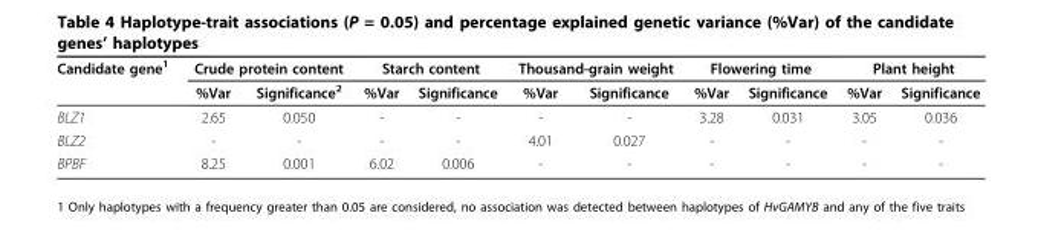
<table><thead><tr><td rowspan="2">Candidate gene<sup>1</sup></td><td colspan="2">Crude protein content</td><td colspan="2">Starch content</td><td colspan="2">Thousand-grain weight</td><td colspan="2">Flowering time</td><td colspan="2">Plant height</td></tr><tr><td>%Var</td><td>Significance<sup>2</sup></td><td>%Var</td><td>Significance</td><td>%Var</td><td>Significance</td><td>%Var</td><td>Significance</td><td>%Var</td><td>Significance</td></tr></thead><tbody><tr><td>BLZ1</td><td>2.65</td><td>0.050</td><td>-</td><td>-</td><td>-</td><td>-</td><td>3.28</td><td>0.031</td><td>3.05</td><td>0.036</td></tr><tr><td>BLZ2</td><td>-</td><td>-</td><td>-</td><td>-</td><td>4.01</td><td>0.027</td><td>-</td><td>-</td><td>-</td><td>-</td></tr><tr><td>BPBF</td><td>8.25</td><td>0.001</td><td>6.02</td><td>0.006</td><td>-</td><td>-</td><td>-</td><td>-</td><td>-</td><td>-</td></tr></tbody></table>